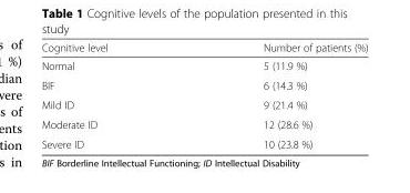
<table><thead><tr><td>Cognitive level</td><td>Number of patients (%)</td></tr></thead><tbody><tr><td>Normal</td><td>5 (11.9 %)</td></tr><tr><td>BIF</td><td>6 (14.3 %)</td></tr><tr><td>Mild ID</td><td>9 (21.4 %)</td></tr><tr><td>Moderate ID</td><td>12 (28.6 %)</td></tr><tr><td>Severe ID</td><td>10 (23.8 %)</td></tr></tbody></table>